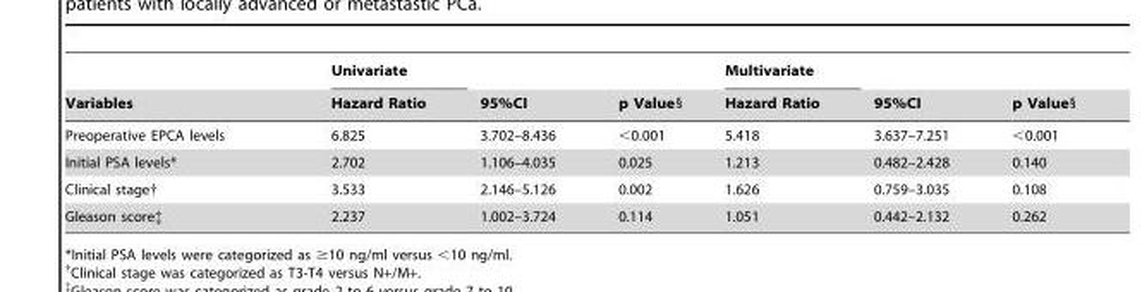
<table><thead><tr><td rowspan="2">Variables</td><td rowspan="2">Univariate Hazard Ratio</td><td rowspan="2">95%CI</td><td rowspan="2">p Value§</td><td rowspan="2">Multivariate Hazard Ratio</td><td rowspan="2">95%CI</td><td rowspan="2">p Value§</td></tr><tr></tr></thead><tbody><tr><td>Preoperative EPCA levels</td><td>6.825</td><td>3.702–8.436</td><td>&lt;0.001</td><td>5.418</td><td>3.637–7.251</td><td>&lt;0.001</td></tr><tr><td>Initial PSA levels*</td><td>2.702</td><td>1.106–4.035</td><td>0.025</td><td>1.213</td><td>0.482–2.428</td><td>0.140</td></tr><tr><td>Clinical stage†</td><td>3.533</td><td>2.146–5.126</td><td>0.002</td><td>1.626</td><td>0.759–3.035</td><td>0.108</td></tr><tr><td>Gleason score‡</td><td>2.237</td><td>1.002–3.724</td><td>0.114</td><td>1.051</td><td>0.442–2.132</td><td>0.262</td></tr></tbody></table>